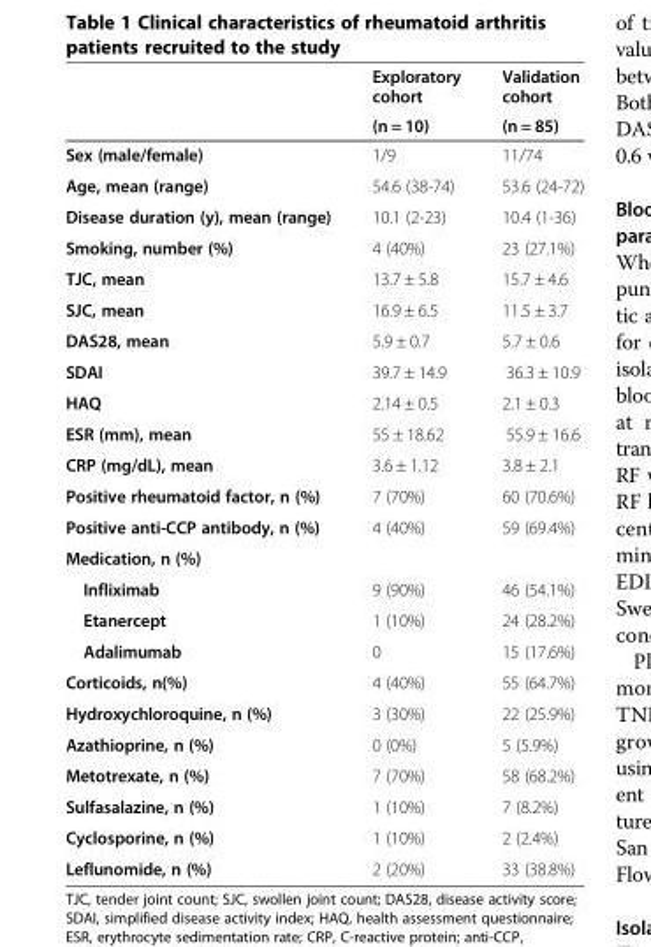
<table><thead><tr><td rowspan="2"></td><td rowspan="2">Exploratory cohort (n = 10)</td><td rowspan="2">Validation cohort (n = 85)</td></tr><tr></tr></thead><tbody><tr><td>Sex (male/female)</td><td>1/9</td><td>11/74</td></tr><tr><td>Age, mean (range)</td><td>54.6 (38-74)</td><td>53.6 (24-72)</td></tr><tr><td>Disease duration (y), mean (range)</td><td>10.1 (2-23)</td><td>10.4 (1-36)</td></tr><tr><td>Smoking, number (%)</td><td>4 (40%)</td><td>23 (27.1%)</td></tr><tr><td>TJC, mean</td><td>13.7 ± 5.8</td><td>15.7 ± 4.6</td></tr><tr><td>SJC, mean</td><td>16.9 ± 6.5</td><td>11.5 ± 3.7</td></tr><tr><td>DAS28, mean</td><td>5.9 ± 0.7</td><td>5.7 ± 0.6</td></tr><tr><td>SDAI</td><td>39.7 ± 14.9</td><td>36.3 ± 10.9</td></tr><tr><td>HAQ</td><td>2.14 ± 0.5</td><td>2.1 ± 0.3</td></tr><tr><td>ESR (mm), mean</td><td>55 ± 18.62</td><td>55.9 ± 16.6</td></tr><tr><td>CRP (mg/dL), mean</td><td>3.6 ± 1.12</td><td>3.8 ± 2.1</td></tr><tr><td>Positive rheumatoid factor, n (%)</td><td>7 (70%)</td><td>60 (70.6%)</td></tr><tr><td>Positive anti-CCP antibody, n (%)</td><td>4 (40%)</td><td>59 (69.4%)</td></tr><tr><td colspan="3">Medication, n (%)</td></tr><tr><td>Infliximab</td><td>9 (90%)</td><td>46 (54.1%)</td></tr><tr><td>Etanercept</td><td>1 (10%)</td><td>24 (28.2%)</td></tr><tr><td>Adalimumab</td><td>0</td><td>15 (17.6%)</td></tr><tr><td>Corticoids, n(%)</td><td>4 (40%)</td><td>55 (64.7%)</td></tr><tr><td>Hydroxychloroquine, n (%)</td><td>3 (30%)</td><td>22 (25.9%)</td></tr><tr><td>Azathioprine, n (%)</td><td>0 (0%)</td><td>5 (5.9%)</td></tr><tr><td>Metotrexate, n (%)</td><td>7 (70%)</td><td>58 (68.2%)</td></tr><tr><td>Sulfasalazine, n (%)</td><td>1 (10%)</td><td>7 (8.2%)</td></tr><tr><td>Cyclosporine, n (%)</td><td>1 (10%)</td><td>2 (2.4%)</td></tr><tr><td>Leflunomide, n (%)</td><td>2 (20%)</td><td>33 (38.8%)</td></tr></tbody></table>